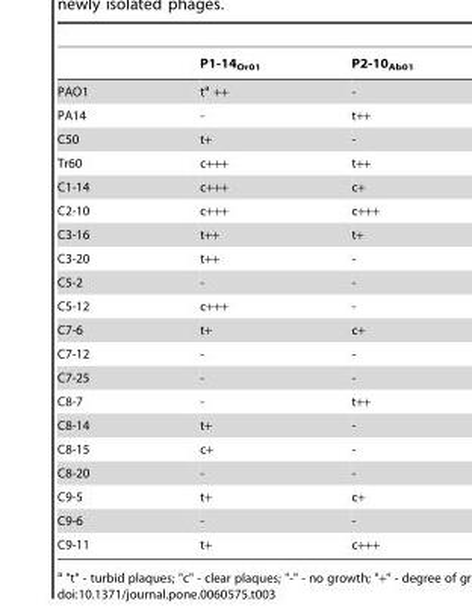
<table><thead><tr><td></td><td>P1-14<sub>Or01</sub></td><td>P2-10<sub>Ab01</sub></td></tr></thead><tbody><tr><td>PAO1</td><td>t<sup>a</sup> ++</td><td>-</td></tr><tr><td>PA14</td><td>-</td><td>t++</td></tr><tr><td>C50</td><td>t+</td><td>-</td></tr><tr><td>Tr60</td><td>c+++</td><td>t++</td></tr><tr><td>C1-14</td><td>c+++</td><td>c+</td></tr><tr><td>C2-10</td><td>c+++</td><td>c+++</td></tr><tr><td>C3-16</td><td>t++</td><td>t+</td></tr><tr><td>C3-20</td><td>t++</td><td>-</td></tr><tr><td>C5-2</td><td>-</td><td>-</td></tr><tr><td>C5-12</td><td>c+++</td><td>-</td></tr><tr><td>C7-6</td><td>t+</td><td>c+</td></tr><tr><td>C7-12</td><td>-</td><td>-</td></tr><tr><td>C7-25</td><td>-</td><td>-</td></tr><tr><td>C8-7</td><td>-</td><td>t++</td></tr><tr><td>C8-14</td><td>t+</td><td>-</td></tr><tr><td>C8-15</td><td>c+</td><td>-</td></tr><tr><td>C8-20</td><td>-</td><td>-</td></tr><tr><td>C9-5</td><td>t+</td><td>c+</td></tr><tr><td>C9-6</td><td>-</td><td>-</td></tr><tr><td>C9-11</td><td>t+</td><td>c+++</td></tr></tbody></table>